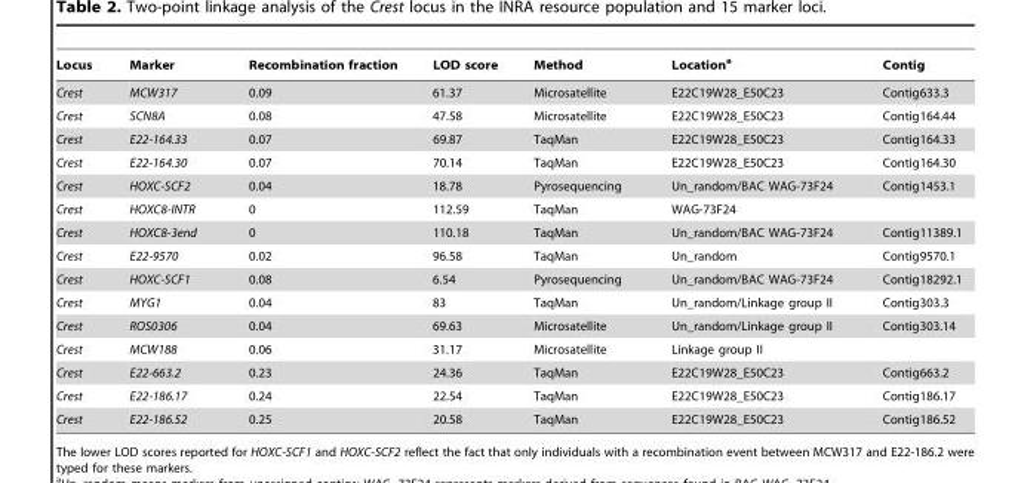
<table><thead><tr><td>Locus</td><td>Marker</td><td>Recombination fraction</td><td>LOD score</td><td>Method</td><td>Location<sup>a</sup></td><td>Contig</td></tr></thead><tbody><tr><td>Crest</td><td>MCW317</td><td>0.09</td><td>61.37</td><td>Microsatellite</td><td>E22C19W28_E50C23</td><td>Contig633.3</td></tr><tr><td>Crest</td><td>SCN8A</td><td>0.08</td><td>47.58</td><td>Microsatellite</td><td>E22C19W28_E50C23</td><td>Contig164.44</td></tr><tr><td>Crest</td><td>E22-164.33</td><td>0.07</td><td>69.87</td><td>TaqMan</td><td>E22C19W28_E50C23</td><td>Contig164.33</td></tr><tr><td>Crest</td><td>E22-164.30</td><td>0.07</td><td>70.14</td><td>TaqMan</td><td>E22C19W28_E50C23</td><td>Contig164.30</td></tr><tr><td>Crest</td><td>HOXC-SCF2</td><td>0.04</td><td>18.78</td><td>Pyrosequencing</td><td>Un_random/BAC WAG-73F24</td><td>Contig1453.1</td></tr><tr><td>Crest</td><td>HOXC8-INTR</td><td>0</td><td>112.59</td><td>TaqMan</td><td>WAG-73F24</td><td></td></tr><tr><td>Crest</td><td>HOXC8-3end</td><td>0</td><td>110.18</td><td>TaqMan</td><td>Un_random/BAC WAG-73F24</td><td>Contig11389.1</td></tr><tr><td>Crest</td><td>E22-9570</td><td>0.02</td><td>96.58</td><td>TaqMan</td><td>Un_random</td><td>Contig9570.1</td></tr><tr><td>Crest</td><td>HOXC-SCF1</td><td>0.08</td><td>6.54</td><td>Pyrosequencing</td><td>Un_random/BAC WAG-73F24</td><td>Contig18292.1</td></tr><tr><td>Crest</td><td>MYG1</td><td>0.04</td><td>83</td><td>TaqMan</td><td>Un_random/Linkage group II</td><td>Contig303.3</td></tr><tr><td>Crest</td><td>ROS0306</td><td>0.04</td><td>69.63</td><td>Microsatellite</td><td>Un_random/Linkage group II</td><td>Contig303.14</td></tr><tr><td>Crest</td><td>MCW188</td><td>0.06</td><td>31.17</td><td>Microsatellite</td><td>Linkage group II</td><td></td></tr><tr><td>Crest</td><td>E22-663.2</td><td>0.23</td><td>24.36</td><td>TaqMan</td><td>E22C19W28_E50C23</td><td>Contig663.2</td></tr><tr><td>Crest</td><td>E22-186.17</td><td>0.24</td><td>22.54</td><td>TaqMan</td><td>E22C19W28_E50C23</td><td>Contig186.17</td></tr><tr><td>Crest</td><td>E22-186.52</td><td>0.25</td><td>20.58</td><td>TaqMan</td><td>E22C19W28_E50C23</td><td>Contig186.52</td></tr></tbody></table>